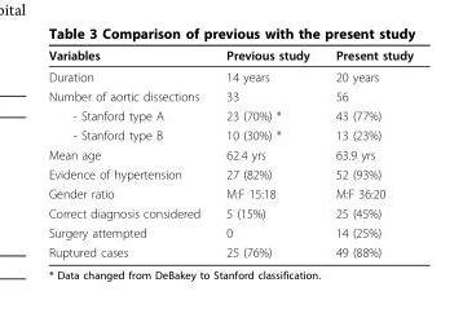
<table><thead><tr><td>Variables</td><td>Previous study</td><td>Present study</td></tr></thead><tbody><tr><td>Duration</td><td>14 years</td><td>20 years</td></tr><tr><td>Number of aortic dissections</td><td>33</td><td>56</td></tr><tr><td>- Stanford type A</td><td>23 (70%) *</td><td>43 (77%)</td></tr><tr><td>- Stanford type B</td><td>10 (30%) *</td><td>13 (23%)</td></tr><tr><td>Mean age</td><td>62.4 yrs</td><td>63.9 yrs</td></tr><tr><td>Evidence of hypertension</td><td>27 (82%)</td><td>52 (93%)</td></tr><tr><td>Gender ratio</td><td>M:F 15:18</td><td>M:F 36:20</td></tr><tr><td>Correct diagnosis considered</td><td>5 (15%)</td><td>25 (45%)</td></tr><tr><td>Surgery attempted</td><td>0</td><td>14 (25%)</td></tr><tr><td>Ruptured cases</td><td>25 (76%)</td><td>49 (88%)</td></tr></tbody></table>